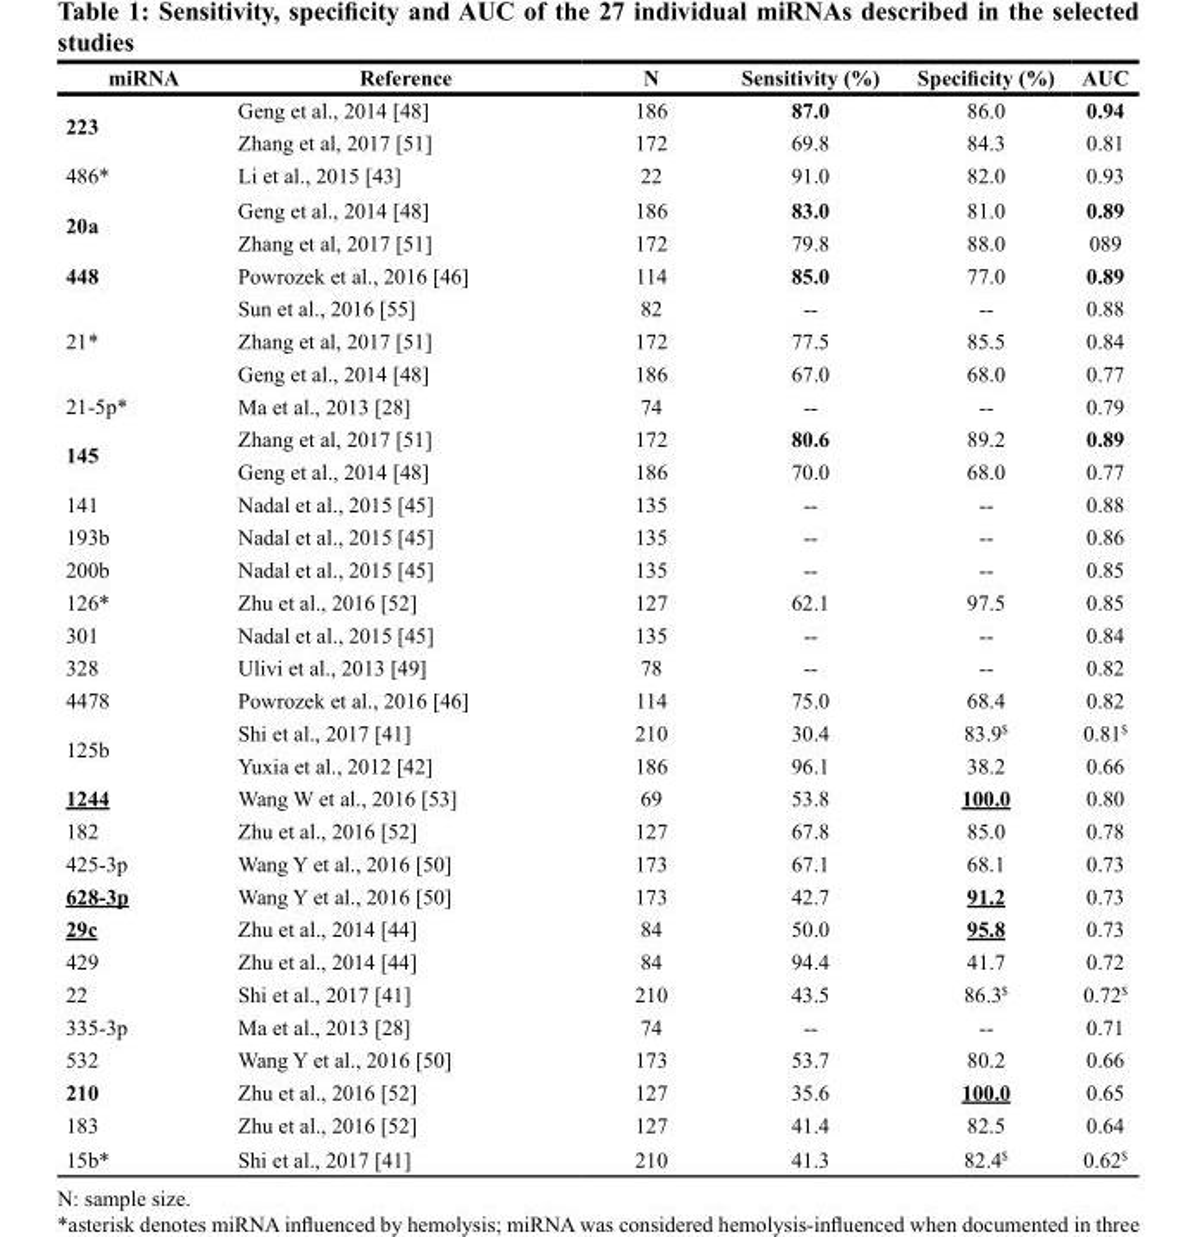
<table><thead><tr><td>miRNA</td><td>Reference</td><td>N</td><td>Sensitivity (%)</td><td>Specificity (%)</td><td>AUC</td></tr></thead><tbody><tr><td rowspan="2">223</td><td>Geng et al., 2014 [48]</td><td>186</td><td>87.0</td><td>86.0</td><td>0.94</td></tr><tr><td>Zhang et al, 2017 [51]</td><td>172</td><td>69.8</td><td>84.3</td><td>0.81</td></tr><tr><td>486*</td><td>Li et al., 2015 [43]</td><td>22</td><td>91.0</td><td>82.0</td><td>0.93</td></tr><tr><td rowspan="2">20a</td><td>Geng et al., 2014 [48]</td><td>186</td><td>83.0</td><td>81.0</td><td>0.89</td></tr><tr><td>Zhang et al, 2017 [51]</td><td>172</td><td>79.8</td><td>88.0</td><td>089</td></tr><tr><td>448</td><td>Powrozek et al., 2016 [46]</td><td>114</td><td>85.0</td><td>77.0</td><td>0.89</td></tr><tr><td rowspan="3">21*</td><td>Sun et al., 2016 [55]</td><td>82</td><td>--</td><td>--</td><td>0.88</td></tr><tr><td>Zhang et al, 2017 [51]</td><td>172</td><td>77.5</td><td>85.5</td><td>0.84</td></tr><tr><td>Geng et al., 2014 [48]</td><td>186</td><td>67.0</td><td>68.0</td><td>0.77</td></tr><tr><td>21-5p*</td><td>Ma et al., 2013 [28]</td><td>74</td><td>--</td><td>--</td><td>0.79</td></tr><tr><td rowspan="2">145</td><td>Zhang et al, 2017 [51]</td><td>172</td><td>80.6</td><td>89.2</td><td>0.89</td></tr><tr><td>Geng et al., 2014 [48]</td><td>186</td><td>70.0</td><td>68.0</td><td>0.77</td></tr><tr><td>141</td><td>Nadal et al., 2015 [45]</td><td>135</td><td>--</td><td>--</td><td>0.88</td></tr><tr><td>193b</td><td>Nadal et al., 2015 [45]</td><td>135</td><td>--</td><td>--</td><td>0.86</td></tr><tr><td>200b</td><td>Nadal et al., 2015 [45]</td><td>135</td><td>--</td><td>--</td><td>0.85</td></tr><tr><td>126*</td><td>Zhu et al., 2016 [52]</td><td>127</td><td>62.1</td><td>97.5</td><td>0.85</td></tr><tr><td>301</td><td>Nadal et al., 2015 [45]</td><td>135</td><td>--</td><td>--</td><td>0.84</td></tr><tr><td>328</td><td>Ulivi et al., 2013 [49]</td><td>78</td><td>--</td><td>--</td><td>0.82</td></tr><tr><td>4478</td><td>Powrozek et al., 2016 [46]</td><td>114</td><td>75.0</td><td>68.4</td><td>0.82</td></tr><tr><td rowspan="2">125b</td><td>Shi et al., 2017 [41]</td><td>210</td><td>30.4</td><td>83.9<sup>$</sup></td><td>0.81<sup>$</sup></td></tr><tr><td>Yuxia et al., 2012 [42]</td><td>186</td><td>96.1</td><td>38.2</td><td>0.66</td></tr><tr><td>1244</td><td>Wang W et al., 2016 [53]</td><td>69</td><td>53.8</td><td>100.0</td><td>0.80</td></tr><tr><td>182</td><td>Zhu et al., 2016 [52]</td><td>127</td><td>67.8</td><td>85.0</td><td>0.78</td></tr><tr><td>425-3p</td><td>Wang Y et al., 2016 [50]</td><td>173</td><td>67.1</td><td>68.1</td><td>0.73</td></tr><tr><td>628-3p</td><td>Wang Y et al., 2016 [50]</td><td>173</td><td>42.7</td><td>91.2</td><td>0.73</td></tr><tr><td>29c</td><td>Zhu et al., 2014 [44]</td><td>84</td><td>50.0</td><td>95.8</td><td>0.73</td></tr><tr><td>429</td><td>Zhu et al., 2014 [44]</td><td>84</td><td>94.4</td><td>41.7</td><td>0.72</td></tr><tr><td>22</td><td>Shi et al., 2017 [41]</td><td>210</td><td>43.5</td><td>86.3<sup>$</sup></td><td>0.72<sup>$</sup></td></tr><tr><td>335-3p</td><td>Ma et al., 2013 [28]</td><td>74</td><td>--</td><td>--</td><td>0.71</td></tr><tr><td>532</td><td>Wang Y et al., 2016 [50]</td><td>173</td><td>53.7</td><td>80.2</td><td>0.66</td></tr><tr><td>210</td><td>Zhu et al., 2016 [52]</td><td>127</td><td>35.6</td><td>100.0</td><td>0.65</td></tr><tr><td>183</td><td>Zhu et al., 2016 [52]</td><td>127</td><td>41.4</td><td>82.5</td><td>0.64</td></tr><tr><td>15b*</td><td>Shi et al., 2017 [41]</td><td>210</td><td>41.3</td><td>82.4<sup>$</sup></td><td>0.62<sup>$</sup></td></tr></tbody></table>